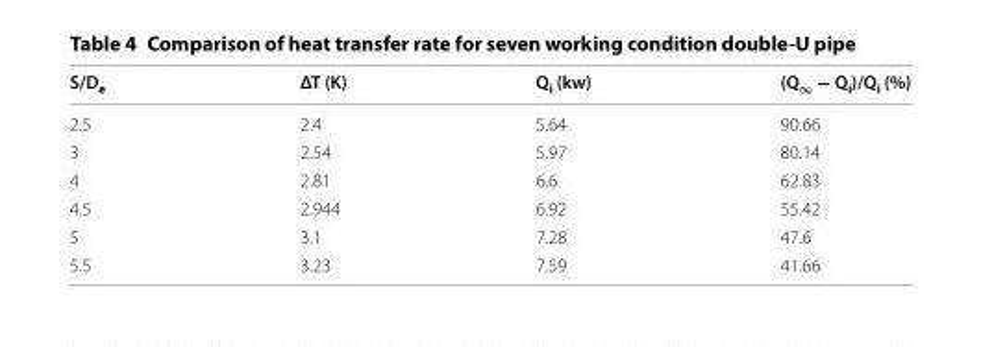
<table><thead><tr><td>S/D<sub>e</sub></td><td>ΔT (K)</td><td>Q<sub>i</sub> (kw)</td><td>(Q<sub>∞</sub> − Q<sub>i</sub>)/Q<sub>i</sub> (%)</td></tr></thead><tbody><tr><td>2.5</td><td>2.4</td><td>5.64</td><td>90.66</td></tr><tr><td>3</td><td>2.54</td><td>5.97</td><td>80.14</td></tr><tr><td>4</td><td>2.81</td><td>6.6</td><td>62.83</td></tr><tr><td>4.5</td><td>2.944</td><td>6.92</td><td>55.42</td></tr><tr><td>5</td><td>3.1</td><td>7.28</td><td>47.6</td></tr><tr><td>5.5</td><td>3.23</td><td>7.59</td><td>41.66</td></tr></tbody></table>